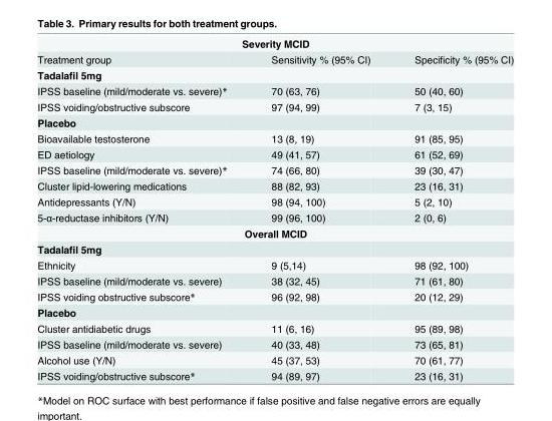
<table><tbody><tr><td colspan="3">Severity MCID</td></tr><tr><td>Treatment group</td><td>Sensitivity % (95% CI)</td><td>Specificity % (95% CI)</td></tr><tr><td colspan="3">Tadalafil 5mg</td></tr><tr><td>IPSS baseline (mild/moderate vs. severe)*</td><td>70 (63, 76)</td><td>50 (40, 60)</td></tr><tr><td>IPSS voiding/obstructive subscore</td><td>97 (94, 99)</td><td>7 (3, 15)</td></tr><tr><td colspan="3">Placebo</td></tr><tr><td>Bioavailable testosterone</td><td>13 (8, 19)</td><td>91 (85, 95)</td></tr><tr><td>ED aetiology</td><td>49 (41, 57)</td><td>61 (52, 69)</td></tr><tr><td>IPSS baseline (mild/moderate vs. severe)*</td><td>74 (66, 80)</td><td>39 (30, 47)</td></tr><tr><td>Cluster lipid-lowering medications</td><td>88 (82, 93)</td><td>23 (16, 31)</td></tr><tr><td>Antidepressants (Y/N)</td><td>98 (94, 100)</td><td>5 (2, 10)</td></tr><tr><td>5-α-reductase inhibitors (Y/N)</td><td>99 (96, 100)</td><td>2 (0, 6)</td></tr><tr><td colspan="3">Overall MCID</td></tr><tr><td colspan="3">Tadalafil 5mg</td></tr><tr><td>Ethnicity</td><td>9 (5,14)</td><td>98 (92, 100)</td></tr><tr><td>IPSS baseline (mild/moderate vs. severe)</td><td>38 (32, 45)</td><td>71 (61, 80)</td></tr><tr><td>IPSS voiding obstructive subscore*</td><td>96 (92, 98)</td><td>20 (12, 29)</td></tr><tr><td colspan="3">Placebo</td></tr><tr><td>Cluster antidiabetic drugs</td><td>11 (6, 16)</td><td>95 (89, 98)</td></tr><tr><td>IPSS baseline (mild/moderate vs. severe)</td><td>40 (33, 48)</td><td>73 (65, 81)</td></tr><tr><td>Alcohol use (Y/N)</td><td>45 (37, 53)</td><td>70 (61, 77)</td></tr><tr><td>IPSS voiding/obstructive subscore*</td><td>94 (89, 97)</td><td>23 (16, 31)</td></tr></tbody></table>